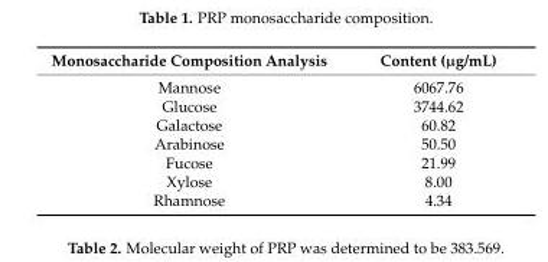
<table><thead><tr><td>Monosaccharide Composition Analysis</td><td>Content (µg/mL)</td></tr></thead><tbody><tr><td>Mannose</td><td>6067.76</td></tr><tr><td>Glucose</td><td>3744.62</td></tr><tr><td>Galactose</td><td>60.82</td></tr><tr><td>Arabinose</td><td>50.50</td></tr><tr><td>Fucose</td><td>21.99</td></tr><tr><td>Xylose</td><td>8.00</td></tr><tr><td>Rhamnose</td><td>4.34</td></tr></tbody></table>